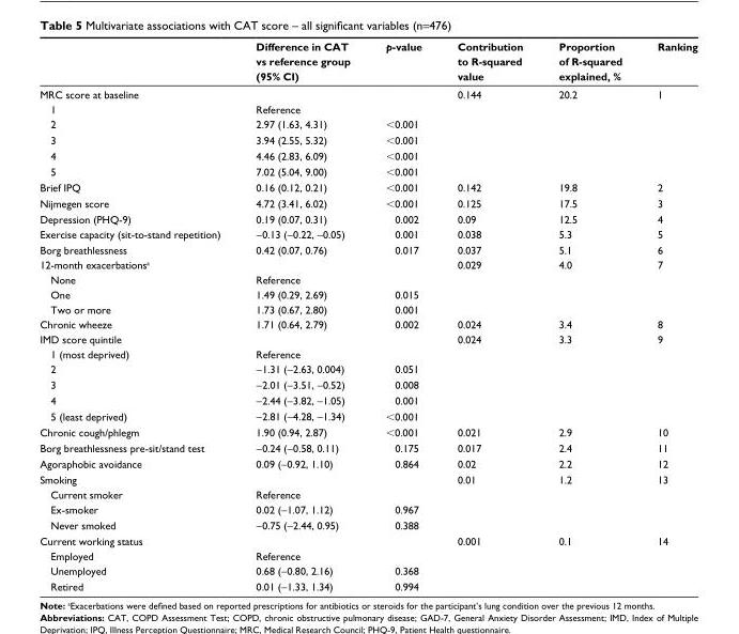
<table><thead><tr><td></td><td>Difference in CAT vs reference group (95% CI)</td><td>p-value</td><td>Contribution to R-squared value</td><td>Proportion of R-squared explained, %</td><td>Ranking</td></tr></thead><tbody><tr><td>MrC score at baseline</td><td></td><td></td><td>0.144</td><td>20.2</td><td>1</td></tr><tr><td>1</td><td>reference</td><td></td><td></td><td></td><td></td></tr><tr><td>2</td><td>2.97 (1.63, 4.31)</td><td>&lt;0.001</td><td></td><td></td><td></td></tr><tr><td>3</td><td>3.94 (2.55, 5.32)</td><td>&lt;0.001</td><td></td><td></td><td></td></tr><tr><td>4</td><td>4.46 (2.83, 6.09)</td><td>&lt;0.001</td><td></td><td></td><td></td></tr><tr><td>5</td><td>7.02 (5.04, 9.00)</td><td>&lt;0.001</td><td></td><td></td><td></td></tr><tr><td>Brief IPQ</td><td>0.16 (0.12, 0.21)</td><td>&lt;0.001</td><td>0.142</td><td>19.8</td><td>2</td></tr><tr><td>nijmegen score</td><td>4.72 (3.41, 6.02)</td><td>&lt;0.001</td><td>0.125</td><td>17.5</td><td>3</td></tr><tr><td>Depression (PhQ-9)</td><td>0.19 (0.07, 0.31)</td><td>0.002</td><td>0.09</td><td>12.5</td><td>4</td></tr><tr><td>exercise capacity (sit-to-stand repetition)</td><td>−0.13 (−0.22, −0.05)</td><td>0.001</td><td>0.038</td><td>5.3</td><td>5</td></tr><tr><td>Borg breathlessness</td><td>0.42 (0.07, 0.76)</td><td>0.017</td><td>0.037</td><td>5.1</td><td>6</td></tr><tr><td>12-month exacerbations<sup>a</sup></td><td></td><td></td><td>0.029</td><td>4.0</td><td>7</td></tr><tr><td>none</td><td>reference</td><td></td><td></td><td></td><td></td></tr><tr><td>One</td><td>1.49 (0.29, 2.69)</td><td>0.015</td><td></td><td></td><td></td></tr><tr><td>Two or more</td><td>1.73 (0.67, 2.80)</td><td>0.001</td><td></td><td></td><td></td></tr><tr><td>Chronic wheeze</td><td>1.71 (0.64, 2.79)</td><td>0.002</td><td>0.024</td><td>3.4</td><td>8</td></tr><tr><td>IMD score quintile</td><td></td><td></td><td>0.024</td><td>3.3</td><td>9</td></tr><tr><td>1 (most deprived)</td><td>reference</td><td></td><td></td><td></td><td></td></tr><tr><td>2</td><td>−1.31 (−2.63, 0.004)</td><td>0.051</td><td></td><td></td><td></td></tr><tr><td>3</td><td>−2.01 (−3.51, −0.52)</td><td>0.008</td><td></td><td></td><td></td></tr><tr><td>4</td><td>−2.44 (−3.82, −1.05)</td><td>0.001</td><td></td><td></td><td></td></tr><tr><td>5 (least deprived)</td><td>−2.81 (−4.28, −1.34)</td><td>&lt;0.001</td><td></td><td></td><td></td></tr><tr><td>Chronic cough/phlegm</td><td>1.90 (0.94, 2.87)</td><td>&lt;0.001</td><td>0.021</td><td>2.9</td><td>10</td></tr><tr><td>Borg breathlessness pre-sit/stand test</td><td>−0.24 (−0.58, 0.11)</td><td>0.175</td><td>0.017</td><td>2.4</td><td>11</td></tr><tr><td>agoraphobic avoidance</td><td>0.09 (−0.92, 1.10)</td><td>0.864</td><td>0.02</td><td>2.2</td><td>12</td></tr><tr><td>smoking</td><td></td><td></td><td>0.01</td><td>1.2</td><td>13</td></tr><tr><td>Current smoker</td><td>reference</td><td></td><td></td><td></td><td></td></tr><tr><td>ex-smoker</td><td>0.02 (−1.07, 1.12)</td><td>0.967</td><td></td><td></td><td></td></tr><tr><td>never smoked</td><td>−0.75 (−2.44, 0.95)</td><td>0.388</td><td></td><td></td><td></td></tr><tr><td>Current working status</td><td></td><td></td><td>0.001</td><td>0.1</td><td>14</td></tr><tr><td>employed</td><td>reference</td><td></td><td></td><td></td><td></td></tr><tr><td>Unemployed</td><td>0.68 (−0.80, 2.16)</td><td>0.368</td><td></td><td></td><td></td></tr><tr><td>retired</td><td>0.01 (−1.33, 1.34)</td><td>0.994</td><td></td><td></td><td></td></tr></tbody></table>